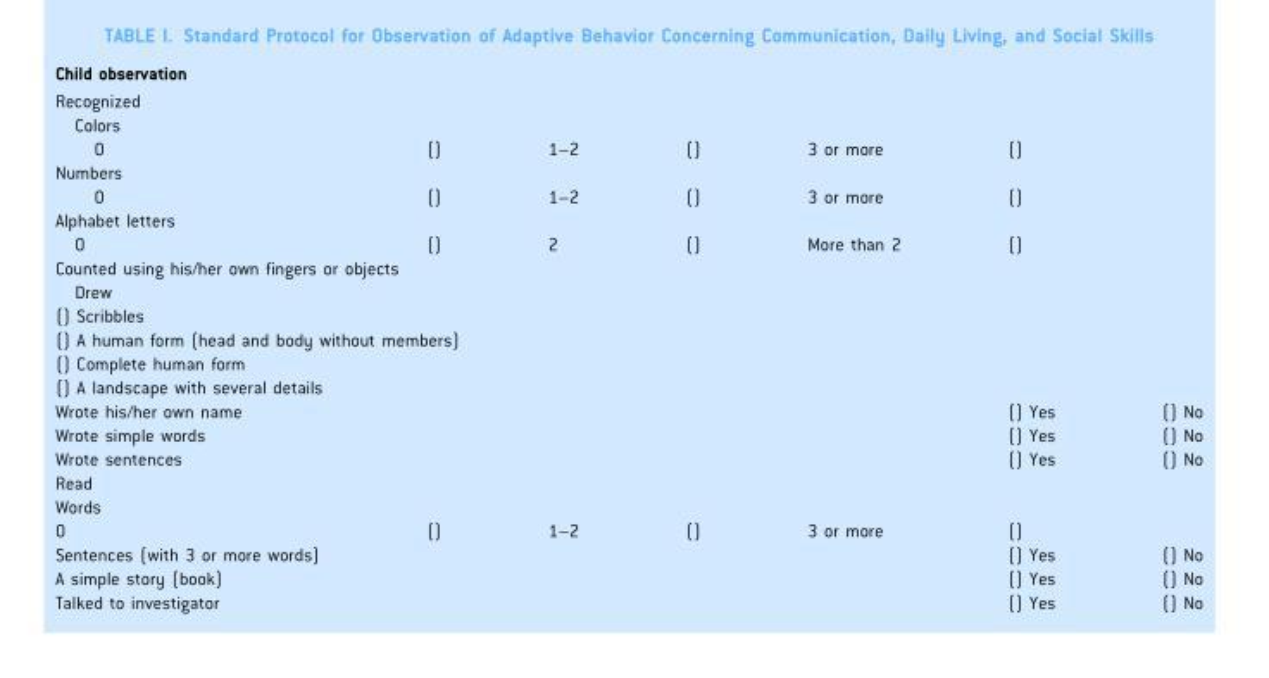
<table><thead><tr><td rowspan="3" colspan="7">Child observation Recognized Colors</td></tr><tr></tr><tr></tr><tr><td>0</td><td>()</td><td>1–2</td><td>()</td><td>3 or more</td><td>()</td><td></td></tr></thead><tbody><tr><td colspan="7">Numbers</td></tr><tr><td>0</td><td>()</td><td>1–2</td><td>()</td><td>3 or more</td><td>()</td><td></td></tr><tr><td colspan="7">Alphabet letters</td></tr><tr><td>0</td><td>()</td><td>2</td><td>()</td><td>More than 2</td><td>()</td><td></td></tr><tr><td colspan="7">Counted using his/her own fingers or objects</td></tr><tr><td colspan="7">Drew</td></tr><tr><td colspan="7">() Scribbles</td></tr><tr><td colspan="7">() A human form (head and body without members)</td></tr><tr><td colspan="7">() Complete human form</td></tr><tr><td colspan="7">() A landscape with several details</td></tr><tr><td>Wrote his/her own name</td><td></td><td></td><td></td><td></td><td>() Yes</td><td>() No</td></tr><tr><td>Wrote simple words</td><td></td><td></td><td></td><td></td><td>() Yes</td><td>() No</td></tr><tr><td>Wrote sentences</td><td></td><td></td><td></td><td></td><td>() Yes</td><td>() No</td></tr><tr><td colspan="7">Read</td></tr><tr><td colspan="7">Words</td></tr><tr><td>0</td><td>()</td><td>1–2</td><td>()</td><td>3 or more</td><td>()</td><td></td></tr><tr><td>Sentences (with 3 or more words)</td><td></td><td></td><td></td><td></td><td>() Yes</td><td>() No</td></tr><tr><td>A simple story (book)</td><td></td><td></td><td></td><td></td><td>() Yes</td><td>() No</td></tr><tr><td>Talked to investigator</td><td></td><td></td><td></td><td></td><td>() Yes</td><td>() No</td></tr></tbody></table>